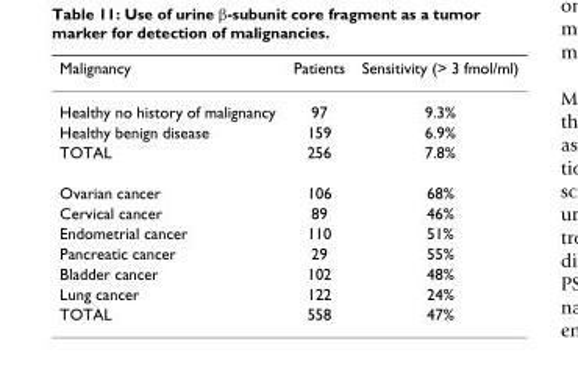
<table><thead><tr><td>Malignancy</td><td>Patients</td><td>Sensitivity (&gt; 3 fmol/ml)</td></tr></thead><tbody><tr><td>Healthy no history of malignancy</td><td>97</td><td>9.3%</td></tr><tr><td>Healthy benign disease</td><td>159</td><td>6.9%</td></tr><tr><td>TOTAL</td><td>256</td><td>7.8%</td></tr><tr><td>Ovarian cancer</td><td>106</td><td>68%</td></tr><tr><td>Cervical cancer</td><td>89</td><td>46%</td></tr><tr><td>Endometrial cancer</td><td>110</td><td>51%</td></tr><tr><td>Pancreatic cancer</td><td>29</td><td>55%</td></tr><tr><td>Bladder cancer</td><td>102</td><td>48%</td></tr><tr><td>Lung cancer</td><td>122</td><td>24%</td></tr><tr><td>TOTAL</td><td>558</td><td>47%</td></tr></tbody></table>